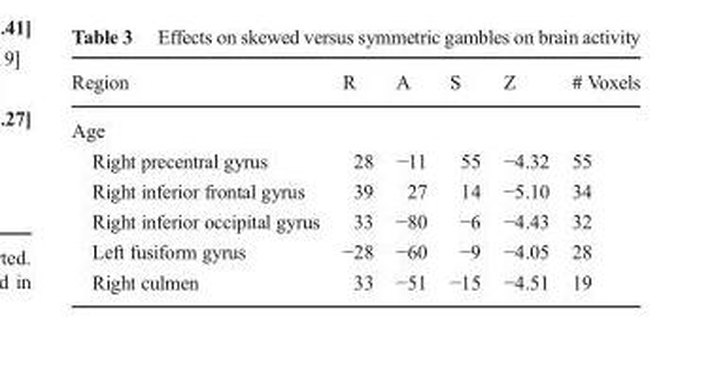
<table><thead><tr><td>Region</td><td>R</td><td>A</td><td>S</td><td>Z</td><td># Voxels</td></tr></thead><tbody><tr><td colspan="6">Age</td></tr><tr><td>Right precentral gyrus</td><td>28</td><td>−11</td><td>55</td><td>−4.32</td><td>55</td></tr><tr><td>Right inferior frontal gyrus</td><td>39</td><td>27</td><td>14</td><td>−5.10</td><td>34</td></tr><tr><td>Right inferior occipital gyrus</td><td>33</td><td>−80</td><td>−6</td><td>−4.43</td><td>32</td></tr><tr><td>Left fusiform gyrus</td><td>−28</td><td>−60</td><td>−9</td><td>−4.05</td><td>28</td></tr><tr><td>Right culmen</td><td>33</td><td>−51</td><td>−15</td><td>−4.51</td><td>19</td></tr></tbody></table>